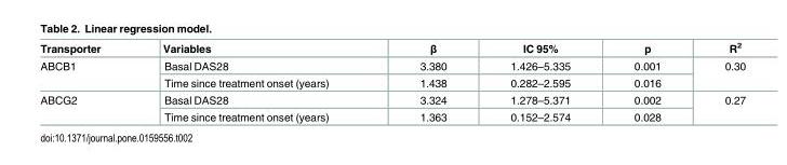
<table><thead><tr><td>Transporter</td><td>Variables</td><td>β</td><td>IC 95%</td><td>p</td><td>R<sup>2</sup></td></tr></thead><tbody><tr><td rowspan="2">ABCB1</td><td>Basal DAS28</td><td>3.380</td><td>1.426–5.335</td><td>0.001</td><td rowspan="2">0.30</td></tr><tr><td>Time since treatment onset (years)</td><td>1.438</td><td>0.282–2.595</td><td>0.016</td></tr><tr><td rowspan="2">ABCG2</td><td>Basal DAS28</td><td>3.324</td><td>1.278–5.371</td><td>0.002</td><td rowspan="2">0.27</td></tr><tr><td>Time since treatment onset (years)</td><td>1.363</td><td>0.152–2.574</td><td>0.028</td></tr></tbody></table>